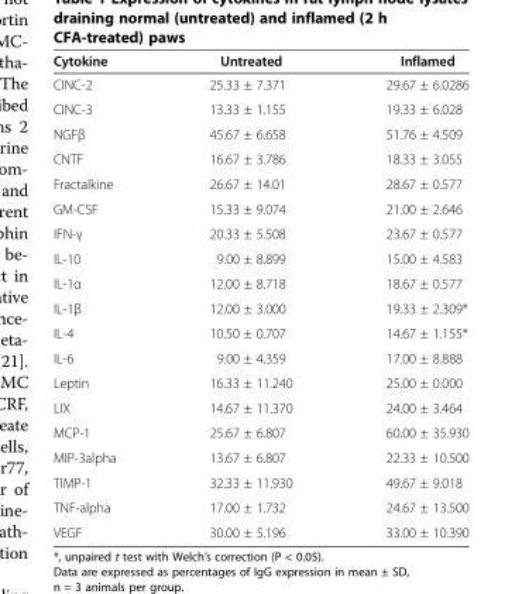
<table><thead><tr><td>Cytokine</td><td>Untreated</td><td>Inflamed</td></tr></thead><tbody><tr><td>CINC-2</td><td>25.33 ± 7.371</td><td>29.67 ± 6.0286</td></tr><tr><td>CINC-3</td><td>13.33 ± 1.155</td><td>19.33 ± 6.028</td></tr><tr><td>NGFβ</td><td>45.67 ± 6.658</td><td>51.76 ± 4.509</td></tr><tr><td>CNTF</td><td>16.67 ± 3.786</td><td>18.33 ± 3.055</td></tr><tr><td>Fractalkine</td><td>26.67 ± 14.01</td><td>28.67 ± 0.577</td></tr><tr><td>GM-CSF</td><td>15.33 ± 9.074</td><td>21.00 ± 2.646</td></tr><tr><td>IFN-γ</td><td>20.33 ± 5.508</td><td>23.67 ± 0.577</td></tr><tr><td>IL-10</td><td>9.00 ± 8.899</td><td>15.00 ± 4.583</td></tr><tr><td>IL-1α</td><td>12.00 ± 8.718</td><td>18.67 ± 0.577</td></tr><tr><td>IL-1β</td><td>12.00 ± 3.000</td><td>19.33 ± 2.309*</td></tr><tr><td>IL-4</td><td>10.50 ± 0.707</td><td>14.67 ± 1.155*</td></tr><tr><td>IL-6</td><td>9.00 ± 4.359</td><td>17.00 ± 8.888</td></tr><tr><td>Leptin</td><td>16.33 ± 11.240</td><td>25.00 ± 0.000</td></tr><tr><td>LIX</td><td>14.67 ± 11.370</td><td>24.00 ± 3.464</td></tr><tr><td>MCP-1</td><td>25.67 ± 6.807</td><td>60.00 ± 35.930</td></tr><tr><td>MIP-3alpha</td><td>13.67 ± 6.807</td><td>22.33 ± 10.500</td></tr><tr><td>TIMP-1</td><td>32.33 ± 11.930</td><td>49.67 ± 9.018</td></tr><tr><td>TNF-alpha</td><td>17.00 ± 1.732</td><td>24.67 ± 13.500</td></tr><tr><td>VEGF</td><td>30.00 ± 5.196</td><td>33.00 ± 10.390</td></tr></tbody></table>